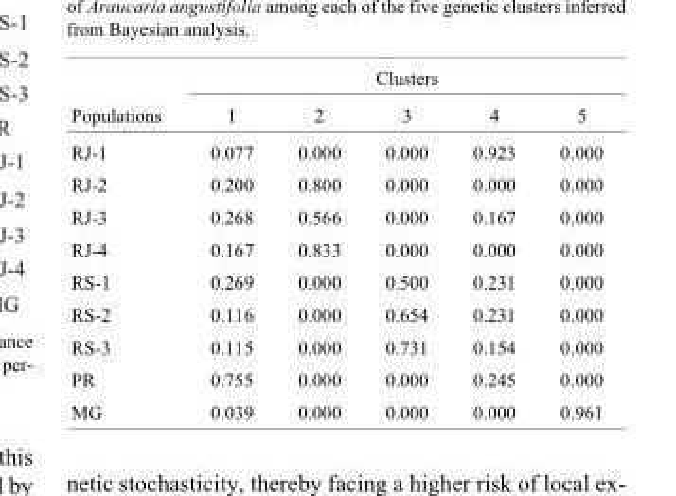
<table><thead><tr><td rowspan="2">Populations</td><td colspan="5">Clusters</td></tr><tr><td>1</td><td>2</td><td>3</td><td>4</td><td>5</td></tr></thead><tbody><tr><td>RJ-1</td><td>0.077</td><td>0.000</td><td>0.000</td><td>0.923</td><td>0.000</td></tr><tr><td>RJ-2</td><td>0.200</td><td>0.800</td><td>0.000</td><td>0.000</td><td>0.000</td></tr><tr><td>RJ-3</td><td>0.268</td><td>0.566</td><td>0.000</td><td>0.167</td><td>0.000</td></tr><tr><td>RJ-4</td><td>0.167</td><td>0.833</td><td>0.000</td><td>0.000</td><td>0.000</td></tr><tr><td>RS-1</td><td>0.269</td><td>0.000</td><td>0.500</td><td>0.231</td><td>0.000</td></tr><tr><td>RS-2</td><td>0.116</td><td>0.000</td><td>0.654</td><td>0.231</td><td>0.000</td></tr><tr><td>RS-3</td><td>0.115</td><td>0.000</td><td>0.731</td><td>0.154</td><td>0.000</td></tr><tr><td>PR</td><td>0.755</td><td>0.000</td><td>0.000</td><td>0.245</td><td>0.000</td></tr><tr><td>MG</td><td>0.039</td><td>0.000</td><td>0.000</td><td>0.000</td><td>0.961</td></tr></tbody></table>